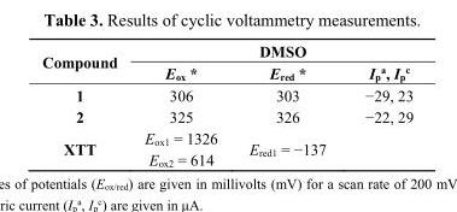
<table><thead><tr><td rowspan="2">Compound</td><td colspan="3">DMSO</td></tr><tr><td>E<sub>ox</sub> *</td><td>E<sub>red</sub> *</td><td>I<sub>p</sub><sup>a</sup>, I<sub>p</sub><sup>c</sup></td></tr></thead><tbody><tr><td>1</td><td>306</td><td>303</td><td>−29, 23</td></tr><tr><td>2</td><td>325</td><td>326</td><td>−22, 29</td></tr><tr><td>XTT</td><td>E<sub>ox1</sub> = 1326 E<sub>ox2</sub> = 614</td><td>E<sub>red1</sub> = −137</td><td></td></tr></tbody></table>